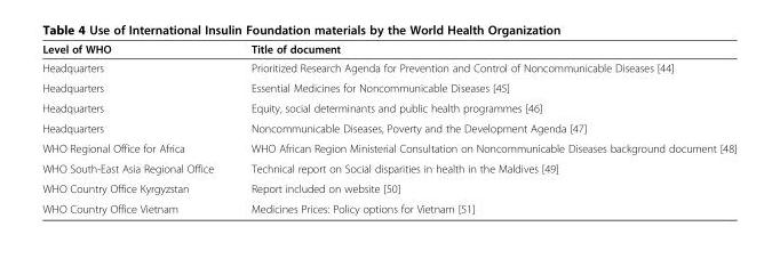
<table><thead><tr><td>Level of WHO</td><td>Title of document</td></tr></thead><tbody><tr><td>Headquarters</td><td>Prioritized Research Agenda for Prevention and Control of Noncommunicable Diseases [44]</td></tr><tr><td>Headquarters</td><td>Essential Medicines for Noncommunicable Diseases [45]</td></tr><tr><td>Headquarters</td><td>Equity, social determinants and public health programmes [46]</td></tr><tr><td>Headquarters</td><td>Noncommunicable Diseases, Poverty and the Development Agenda [47]</td></tr><tr><td>WHO Regional Office for Africa</td><td>WHO African Region Ministerial Consultation on Noncommunicable Diseases background document [48]</td></tr><tr><td>WHO South-East Asia Regional Office</td><td>Technical report on Social disparities in health in the Maldives [49]</td></tr><tr><td>WHO Country Office Kyrgyzstan</td><td>Report included on website [50]</td></tr><tr><td>WHO Country Office Vietnam</td><td>Medicines Prices: Policy options for Vietnam [51]</td></tr></tbody></table>